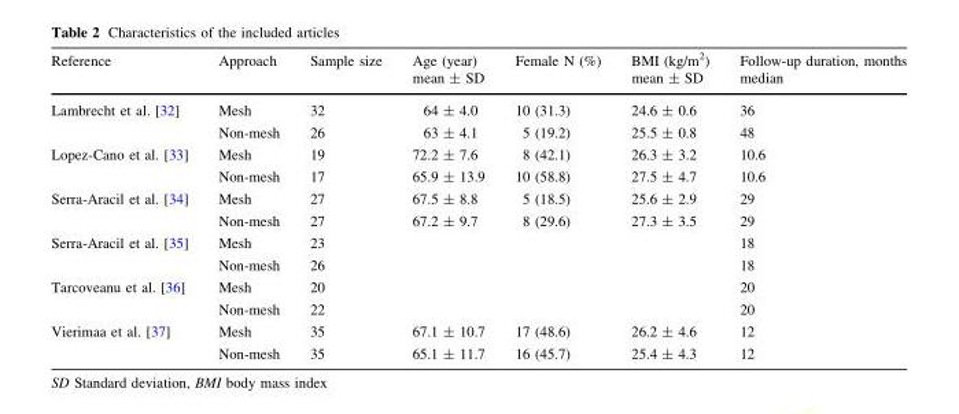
<table><thead><tr><td>Reference</td><td>Approach</td><td>Sample size</td><td>Age (year) mean ± SD</td><td>Female N (%)</td><td>BMI (kg/m<sup>2</sup>) mean ± SD</td><td>Follow-up duration, months median</td></tr></thead><tbody><tr><td rowspan="2">Lambrecht et al. [32]</td><td>Mesh</td><td>32</td><td>64 ± 4.0</td><td>10 (31.3)</td><td>24.6 ± 0.6</td><td>36</td></tr><tr><td>Non-mesh</td><td>26</td><td>63 ± 4.1</td><td>5 (19.2)</td><td>25.5 ± 0.8</td><td>48</td></tr><tr><td rowspan="2">Lopez-Cano et al. [33]</td><td>Mesh</td><td>19</td><td>72.2 ± 7.6</td><td>8 (42.1)</td><td>26.3 ± 3.2</td><td>10.6</td></tr><tr><td>Non-mesh</td><td>17</td><td>65.9 ± 13.9</td><td>10 (58.8)</td><td>27.5 ± 4.7</td><td>10.6</td></tr><tr><td rowspan="2">Serra-Aracil et al. [34]</td><td>Mesh</td><td>27</td><td>67.5 ± 8.8</td><td>5 (18.5)</td><td>25.6 ± 2.9</td><td>29</td></tr><tr><td>Non-mesh</td><td>27</td><td>67.2 ± 9.7</td><td>8 (29.6)</td><td>27.3 ± 3.5</td><td>29</td></tr><tr><td rowspan="2">Serra-Aracil et al. [35]</td><td>Mesh</td><td>23</td><td></td><td></td><td></td><td>18</td></tr><tr><td>Non-mesh</td><td>26</td><td></td><td></td><td></td><td>18</td></tr><tr><td rowspan="2">Tarcoveanu et al. [36]</td><td>Mesh</td><td>20</td><td></td><td></td><td></td><td>20</td></tr><tr><td>Non-mesh</td><td>22</td><td></td><td></td><td></td><td>20</td></tr><tr><td rowspan="2">Vierimaa et al. [37]</td><td>Mesh</td><td>35</td><td>67.1 ± 10.7</td><td>17 (48.6)</td><td>26.2 ± 4.6</td><td>12</td></tr><tr><td>Non-mesh</td><td>35</td><td>65.1 ± 11.7</td><td>16 (45.7)</td><td>25.4 ± 4.3</td><td>12</td></tr></tbody></table>